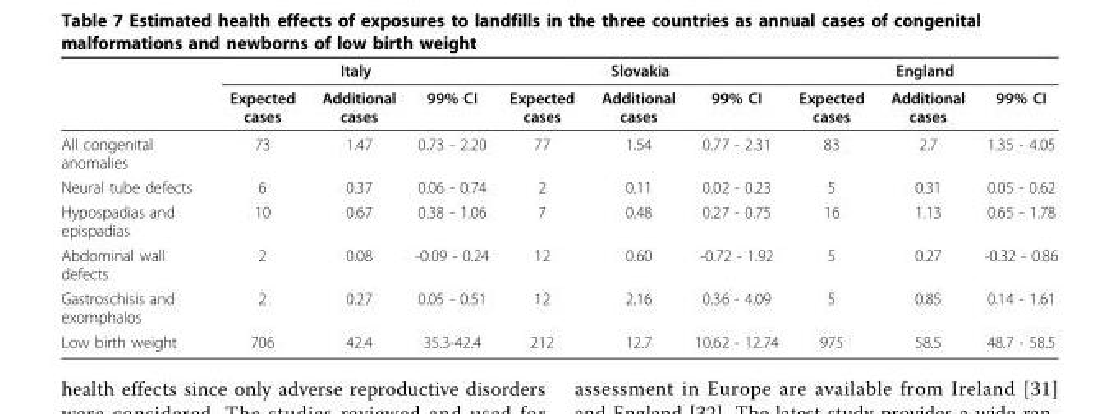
<table><thead><tr><td rowspan="2"></td><td colspan="3">Italy</td><td colspan="3">Slovakia</td><td colspan="3">England</td></tr><tr><td>Expected cases</td><td>Additional cases</td><td>99% CI</td><td>Expected cases</td><td>Additional cases</td><td>99% CI</td><td>Expected cases</td><td>Additional cases</td><td>99% CI</td></tr></thead><tbody><tr><td>All congenital anomalies</td><td>73</td><td>1.47</td><td>0.73 - 2.20</td><td>77</td><td>1.54</td><td>0.77 - 2.31</td><td>83</td><td>2.7</td><td>1.35 - 4.05</td></tr><tr><td>Neural tube defects</td><td>6</td><td>0.37</td><td>0.06 - 0.74</td><td>2</td><td>0.11</td><td>0.02 - 0.23</td><td>5</td><td>0.31</td><td>0.05 - 0.62</td></tr><tr><td>Hypospadias and epispadias</td><td>10</td><td>0.67</td><td>0.38 - 1.06</td><td>7</td><td>0.48</td><td>0.27 - 0.75</td><td>16</td><td>1.13</td><td>0.65 - 1.78</td></tr><tr><td>Abdominal wall defects</td><td>2</td><td>0.08</td><td>-0.09 - 0.24</td><td>12</td><td>0.60</td><td>-0.72 - 1.92</td><td>5</td><td>0.27</td><td>-0.32 - 0.86</td></tr><tr><td>Gastroschisis and exomphalos</td><td>2</td><td>0.27</td><td>0.05 - 0.51</td><td>12</td><td>2.16</td><td>0.36 - 4.09</td><td>5</td><td>0.85</td><td>0.14 - 1.61</td></tr><tr><td>Low birth weight</td><td>706</td><td>42.4</td><td>35.3-42.4</td><td>212</td><td>12.7</td><td>10.62 - 12.74</td><td>975</td><td>58.5</td><td>48.7 - 58.5</td></tr></tbody></table>